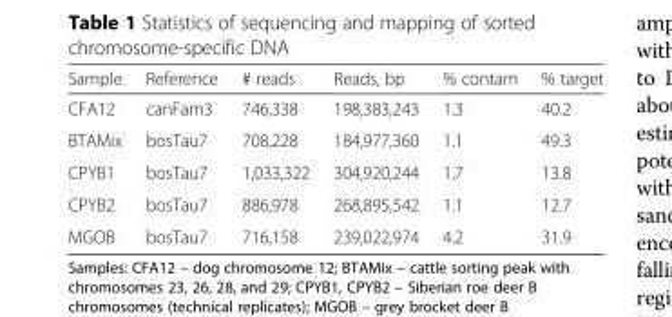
<table><thead><tr><td>Sample</td><td>Reference</td><td># reads</td><td>Reads, bp</td><td>% contam</td><td>% target</td></tr></thead><tbody><tr><td>CFA12</td><td>canFam3</td><td>746,338</td><td>198,383,243</td><td>1.3</td><td>40.2</td></tr><tr><td>BTAMix</td><td>bosTau7</td><td>708,228</td><td>184,977,360</td><td>1.1</td><td>49.3</td></tr><tr><td>CPYB1</td><td>bosTau7</td><td>1,033,322</td><td>304,920,244</td><td>1.7</td><td>13.8</td></tr><tr><td>CPYB2</td><td>bosTau7</td><td>886,978</td><td>268,895,542</td><td>1.1</td><td>12.7</td></tr><tr><td>MGOB</td><td>bosTau7</td><td>716,158</td><td>239,022,974</td><td>4.2</td><td>31.9</td></tr></tbody></table>